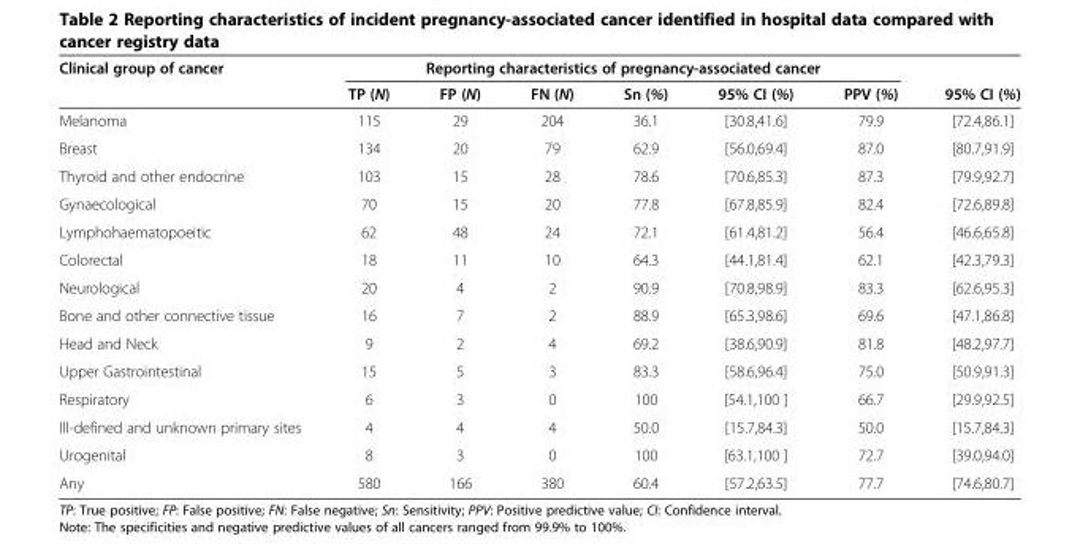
<table><thead><tr><td rowspan="2">Clinical group of cancer</td><td colspan="6">Reporting characteristics of pregnancy-associated cancer</td><td rowspan="2">95% CI (%)</td></tr><tr><td>TP (N)</td><td>FP (N)</td><td>FN (N)</td><td>Sn (%)</td><td>95% CI (%)</td><td>PPV (%)</td></tr></thead><tbody><tr><td>Melanoma</td><td>115</td><td>29</td><td>204</td><td>36.1</td><td>[30.8,41.6]</td><td>79.9</td><td>[72.4,86.1]</td></tr><tr><td>Breast</td><td>134</td><td>20</td><td>79</td><td>62.9</td><td>[56.0,69.4]</td><td>87.0</td><td>[80.7,91.9]</td></tr><tr><td>Thyroid and other endocrine</td><td>103</td><td>15</td><td>28</td><td>78.6</td><td>[70.6,85.3]</td><td>87.3</td><td>[79.9,92.7]</td></tr><tr><td>Gynaecological</td><td>70</td><td>15</td><td>20</td><td>77.8</td><td>[67.8,85.9]</td><td>82.4</td><td>[72.6,89.8]</td></tr><tr><td>Lymphohaematopoeitic</td><td>62</td><td>48</td><td>24</td><td>72.1</td><td>[61.4,81.2]</td><td>56.4</td><td>[46.6,65.8]</td></tr><tr><td>Colorectal</td><td>18</td><td>11</td><td>10</td><td>64.3</td><td>[44.1,81.4]</td><td>62.1</td><td>[42.3,79.3]</td></tr><tr><td>Neurological</td><td>20</td><td>4</td><td>2</td><td>90.9</td><td>[70.8,98.9]</td><td>83.3</td><td>[62.6,95.3]</td></tr><tr><td>Bone and other connective tissue</td><td>16</td><td>7</td><td>2</td><td>88.9</td><td>[65.3,98.6]</td><td>69.6</td><td>[47.1,86.8]</td></tr><tr><td>Head and Neck</td><td>9</td><td>2</td><td>4</td><td>69.2</td><td>[38.6,90.9]</td><td>81.8</td><td>[48.2,97.7]</td></tr><tr><td>Upper Gastrointestinal</td><td>15</td><td>5</td><td>3</td><td>83.3</td><td>[58.6,96.4]</td><td>75.0</td><td>[50.9,91.3]</td></tr><tr><td>Respiratory</td><td>6</td><td>3</td><td>0</td><td>100</td><td>[54.1,100 ]</td><td>66.7</td><td>[29.9,92.5]</td></tr><tr><td>Ill-defined and unknown primary sites</td><td>4</td><td>4</td><td>4</td><td>50.0</td><td>[15.7,84.3]</td><td>50.0</td><td>[15.7,84.3]</td></tr><tr><td>Urogenital</td><td>8</td><td>3</td><td>0</td><td>100</td><td>[63.1,100 ]</td><td>72.7</td><td>[39.0,94.0]</td></tr><tr><td>Any</td><td>580</td><td>166</td><td>380</td><td>60.4</td><td>[57.2,63.5]</td><td>77.7</td><td>[74.6,80.7]</td></tr></tbody></table>